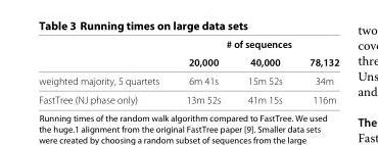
<table><thead><tr><td rowspan="2"></td><td colspan="3"># of sequences</td></tr><tr><td>20,000</td><td>40,000</td><td>78,132</td></tr></thead><tbody><tr><td>weighted majority, 5 quartets</td><td>6m 41s</td><td>15m 52s</td><td>34m</td></tr><tr><td>FastTree (NJ phase only)</td><td>13m 52s</td><td>41m 15s</td><td>116m</td></tr></tbody></table>